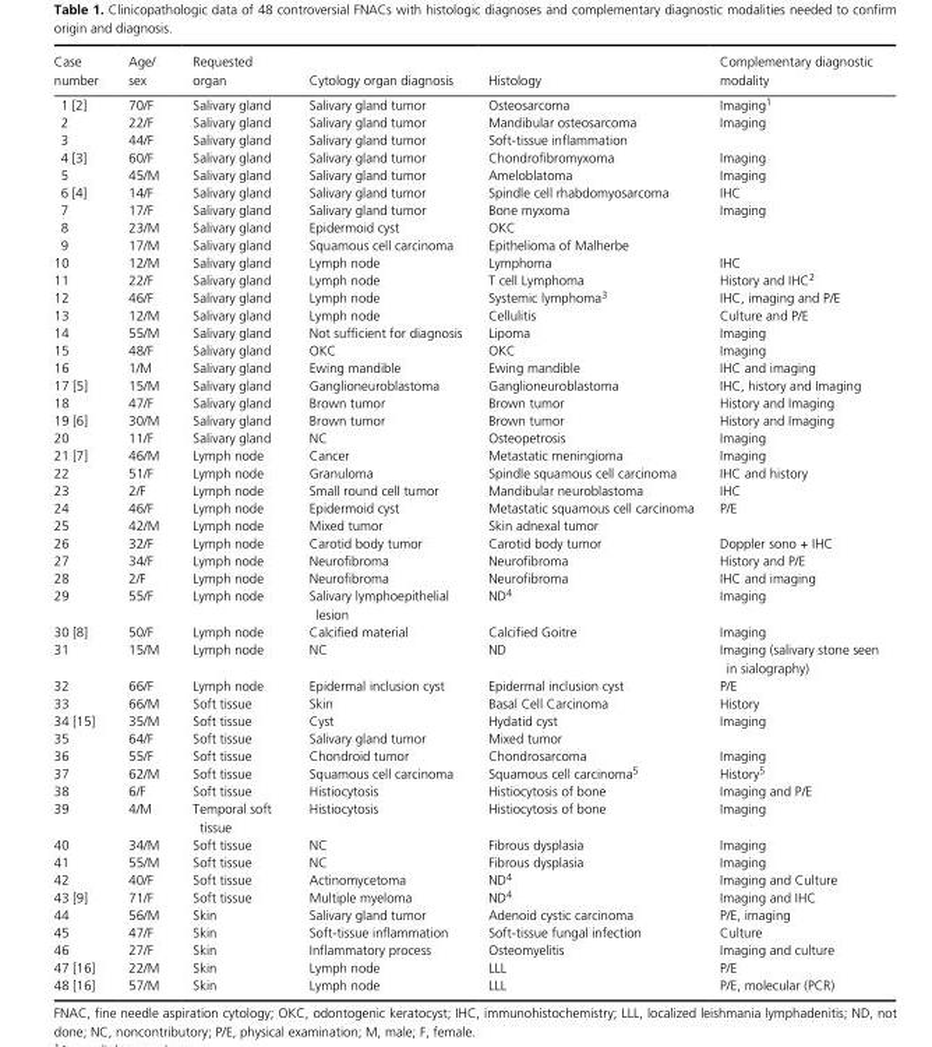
<table><thead><tr><td>Case number</td><td>Age/ sex</td><td>Requested organ</td><td>Cytology organ diagnosis</td><td>Histology</td><td>Complementary diagnostic modality</td></tr></thead><tbody><tr><td>1 [2]</td><td>70/F</td><td>Salivary gland</td><td>Salivary gland tumor</td><td>Osteosarcoma</td><td>Imaging<sup>1</sup></td></tr><tr><td>2</td><td>22/F</td><td>Salivary gland</td><td>Salivary gland tumor</td><td>Mandibular osteosarcoma</td><td>Imaging</td></tr><tr><td>3</td><td>44/F</td><td>Salivary gland</td><td>Salivary gland tumor</td><td>Soft- tissue inflammation</td><td></td></tr><tr><td>4 [3]</td><td>60/F</td><td>Salivary gland</td><td>Salivary gland tumor</td><td>Chondrofibromyxoma</td><td>Imaging</td></tr><tr><td>5</td><td>45/M</td><td>Salivary gland</td><td>Salivary gland tumor</td><td>Ameloblatoma</td><td>Imaging</td></tr><tr><td>6 [4]</td><td>14/F</td><td>Salivary gland</td><td>Salivary gland tumor</td><td>Spindle cell rhabdomyosarcoma</td><td>IHC</td></tr><tr><td>7</td><td>17/F</td><td>Salivary gland</td><td>Salivary gland tumor</td><td>Bone myxoma</td><td>Imaging</td></tr><tr><td>8</td><td>23/M</td><td>Salivary gland</td><td>Epidermoid cyst</td><td>OKC</td><td></td></tr><tr><td>9</td><td>17/M</td><td>Salivary gland</td><td>Squamous cell carcinoma</td><td>Epithelioma of Malherbe</td><td></td></tr><tr><td>10</td><td>12/M</td><td>Salivary gland</td><td>Lymph node</td><td>Lymphoma</td><td>IHC</td></tr><tr><td>11</td><td>22/F</td><td>Salivary gland</td><td>Lymph node</td><td>T cell Lymphoma</td><td>History and IHC<sup>2</sup></td></tr><tr><td>12</td><td>46/F</td><td>Salivary gland</td><td>Lymph node</td><td>Systemic lymphoma<sup>3</sup></td><td>IHC, imaging and P/E</td></tr><tr><td>13</td><td>12/M</td><td>Salivary gland</td><td>Lymph node</td><td>Cellulitis</td><td>Culture and P/E</td></tr><tr><td>14</td><td>55/M</td><td>Salivary gland</td><td>Not sufficient for diagnosis</td><td>Lipoma</td><td>Imaging</td></tr><tr><td>15</td><td>48/F</td><td>Salivary gland</td><td>OKC</td><td>OKC</td><td>Imaging</td></tr><tr><td>16</td><td>1/M</td><td>Salivary gland</td><td>Ewing mandible</td><td>Ewing mandible</td><td>IHC and imaging</td></tr><tr><td>17 [5]</td><td>15/M</td><td>Salivary gland</td><td>Ganglioneuroblastoma</td><td>Ganglioneuroblastoma</td><td>IHC, history and Imaging</td></tr><tr><td>18</td><td>47/F</td><td>Salivary gland</td><td>Brown tumor</td><td>Brown tumor</td><td>History and Imaging</td></tr><tr><td>19 [6]</td><td>30/M</td><td>Salivary gland</td><td>Brown tumor</td><td>Brown tumor</td><td>History and Imaging</td></tr><tr><td>20</td><td>11/F</td><td>Salivary gland</td><td>NC</td><td>Osteopetrosis</td><td>Imaging</td></tr><tr><td>21 [7]</td><td>46/M</td><td>Lymph node</td><td>Cancer</td><td>Metastatic meningioma</td><td>Imaging</td></tr><tr><td>22</td><td>51/F</td><td>Lymph node</td><td>Granuloma</td><td>Spindle squamous cell carcinoma</td><td>IHC and history</td></tr><tr><td>23</td><td>2/F</td><td>Lymph node</td><td>Small round cell tumor</td><td>Mandibular neuroblastoma</td><td>IHC</td></tr><tr><td>24</td><td>46/F</td><td>Lymph node</td><td>Epidermoid cyst</td><td>Metastatic squamous cell carcinoma</td><td>P/E</td></tr><tr><td>25</td><td>42/M</td><td>Lymph node</td><td>Mixed tumor</td><td>Skin adnexal tumor</td><td></td></tr><tr><td>26</td><td>32/F</td><td>Lymph node</td><td>Carotid body tumor</td><td>Carotid body tumor</td><td>Doppler sono + IHC</td></tr><tr><td>27</td><td>34/F</td><td>Lymph node</td><td>Neurofibroma</td><td>Neurofibroma</td><td>History and P/E</td></tr><tr><td>28</td><td>2/F</td><td>Lymph node</td><td>Neurofibroma</td><td>Neurofibroma</td><td>IHC and imaging</td></tr><tr><td>29</td><td>55/F</td><td>Lymph node</td><td>Salivary lymphoepithelial lesion</td><td>ND<sup>4</sup></td><td>Imaging</td></tr><tr><td>30 [8]</td><td>50/F</td><td>Lymph node</td><td>Calcified material</td><td>Calcified Goitre</td><td>Imaging</td></tr><tr><td>31</td><td>15/M</td><td>Lymph node</td><td>NC</td><td>ND</td><td>Imaging (salivary stone seen in sialography)</td></tr><tr><td>32</td><td>66/F</td><td>Lymph node</td><td>Epidermal inclusion cyst</td><td>Epidermal inclusion cyst</td><td>P/E</td></tr><tr><td>33</td><td>66/M</td><td>Soft tissue</td><td>Skin</td><td>Basal Cell Carcinoma</td><td>History</td></tr><tr><td>34 [15]</td><td>35/M</td><td>Soft tissue</td><td>Cyst</td><td>Hydatid cyst</td><td>Imaging</td></tr><tr><td>35</td><td>64/F</td><td>Soft tissue</td><td>Salivary gland tumor</td><td>Mixed tumor</td><td></td></tr><tr><td>36</td><td>55/F</td><td>Soft tissue</td><td>Chondroid tumor</td><td>Chondrosarcoma</td><td>Imaging</td></tr><tr><td>37</td><td>62/M</td><td>Soft tissue</td><td>Squamous cell carcinoma</td><td>Squamous cell carcinoma<sup>5</sup></td><td>History<sup>5</sup></td></tr><tr><td>38</td><td>6/F</td><td>Soft tissue</td><td>Histiocytosis</td><td>Histiocytosis of bone</td><td>Imaging and P/E</td></tr><tr><td>39</td><td>4/M</td><td>Temporal soft tissue</td><td>Histiocytosis</td><td>Histiocytosis of bone</td><td>Imaging</td></tr><tr><td>40</td><td>34/M</td><td>Soft tissue</td><td>NC</td><td>Fibrous dysplasia</td><td>Imaging</td></tr><tr><td>41</td><td>55/M</td><td>Soft tissue</td><td>NC</td><td>Fibrous dysplasia</td><td>Imaging</td></tr><tr><td>42</td><td>40/F</td><td>Soft tissue</td><td>Actinomycetoma</td><td>ND<sup>4</sup></td><td>Imaging and Culture</td></tr><tr><td>43 [9]</td><td>71/F</td><td>Soft tissue</td><td>Multiple myeloma</td><td>ND<sup>4</sup></td><td>Imaging and IHC</td></tr><tr><td>44</td><td>56/M</td><td>Skin</td><td>Salivary gland tumor</td><td>Adenoid cystic carcinoma</td><td>P/E, imaging</td></tr><tr><td>45</td><td>47/F</td><td>Skin</td><td>Soft- tissue inflammation</td><td>Soft- tissue fungal infection</td><td>Culture</td></tr><tr><td>46</td><td>27/F</td><td>Skin</td><td>Inflammatory process</td><td>Osteomyelitis</td><td>Imaging and culture</td></tr><tr><td>47 [16]</td><td>22/M</td><td>Skin</td><td>Lymph node</td><td>LLL</td><td>P/E</td></tr><tr><td>48 [16]</td><td>57/M</td><td>Skin</td><td>Lymph node</td><td>LLL</td><td>P/E, molecular (PCR)</td></tr></tbody></table>